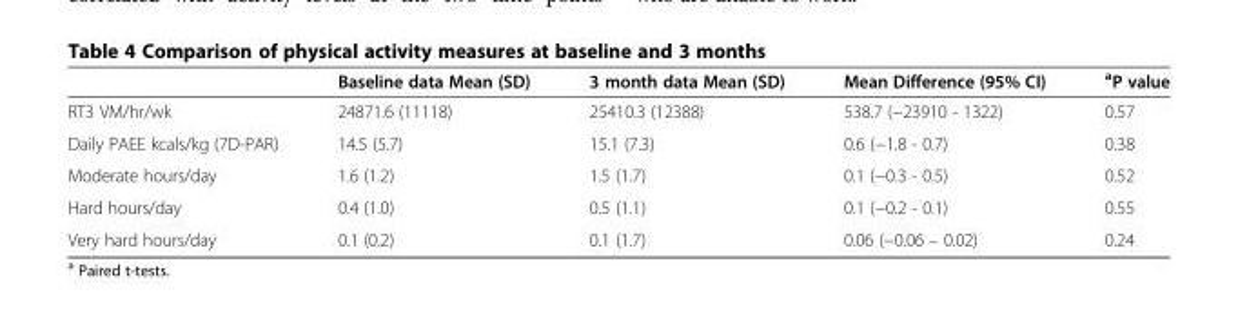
<table><thead><tr><td></td><td>Baseline data Mean (SD)</td><td>3 month data Mean (SD)</td><td>Mean Difference (95% CI)</td><td><sup>a</sup>P value</td></tr></thead><tbody><tr><td>RT3 VM/hr/wk</td><td>24871.6 (11118)</td><td>25410.3 (12388)</td><td>538.7 (−23910 - 1322)</td><td>0.57</td></tr><tr><td>Daily PAEE kcals/kg (7D-PAR)</td><td>14.5 (5.7)</td><td>15.1 (7.3)</td><td>0.6 (−1.8 - 0.7)</td><td>0.38</td></tr><tr><td>Moderate hours/day</td><td>1.6 (1.2)</td><td>1.5 (1.7)</td><td>0.1 (−0.3 - 0.5)</td><td>0.52</td></tr><tr><td>Hard hours/day</td><td>0.4 (1.0)</td><td>0.5 (1.1)</td><td>0.1 (−0.2 - 0.1)</td><td>0.55</td></tr><tr><td>Very hard hours/day</td><td>0.1 (0.2)</td><td>0.1 (1.7)</td><td>0.06 (−0.06 – 0.02)</td><td>0.24</td></tr></tbody></table>